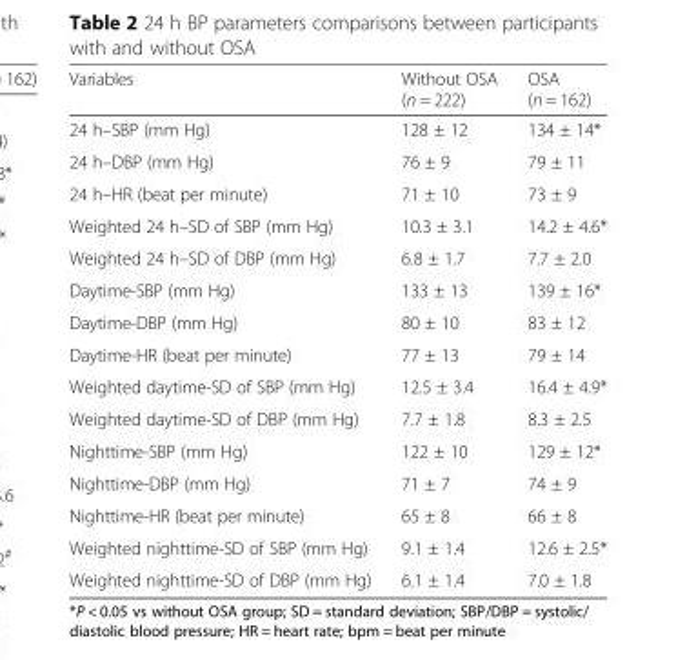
<table><thead><tr><td>Variables</td><td>Without OSA (n = 222)</td><td>OSA (n = 162)</td></tr></thead><tbody><tr><td>24 h–SBP (mm Hg)</td><td>128 ± 12</td><td>134 ± 14*</td></tr><tr><td>24 h–DBP (mm Hg)</td><td>76 ± 9</td><td>79 ± 11</td></tr><tr><td>24 h–HR (beat per minute)</td><td>71 ± 10</td><td>73 ± 9</td></tr><tr><td>Weighted 24 h–SD of SBP (mm Hg)</td><td>10.3 ± 3.1</td><td>14.2 ± 4.6*</td></tr><tr><td>Weighted 24 h–SD of DBP (mm Hg)</td><td>6.8 ± 1.7</td><td>7.7 ± 2.0</td></tr><tr><td>Daytime-SBP (mm Hg)</td><td>133 ± 13</td><td>139 ± 16*</td></tr><tr><td>Daytime-DBP (mm Hg)</td><td>80 ± 10</td><td>83 ± 12</td></tr><tr><td>Daytime-HR (beat per minute)</td><td>77 ± 13</td><td>79 ± 14</td></tr><tr><td>Weighted daytime-SD of SBP (mm Hg)</td><td>12.5 ± 3.4</td><td>16.4 ± 4.9*</td></tr><tr><td>Weighted daytime-SD of DBP (mm Hg)</td><td>7.7 ± 1.8</td><td>8.3 ± 2.5</td></tr><tr><td>Nighttime-SBP (mm Hg)</td><td>122 ± 10</td><td>129 ± 12*</td></tr><tr><td>Nighttime-DBP (mm Hg)</td><td>71 ± 7</td><td>74 ± 9</td></tr><tr><td>Nighttime-HR (beat per minute)</td><td>65 ± 8</td><td>66 ± 8</td></tr><tr><td>Weighted nighttime-SD of SBP (mm Hg)</td><td>9.1 ± 1.4</td><td>12.6 ± 2.5*</td></tr><tr><td>Weighted nighttime-SD of DBP (mm Hg)</td><td>6.1 ± 1.4</td><td>7.0 ± 1.8</td></tr></tbody></table>